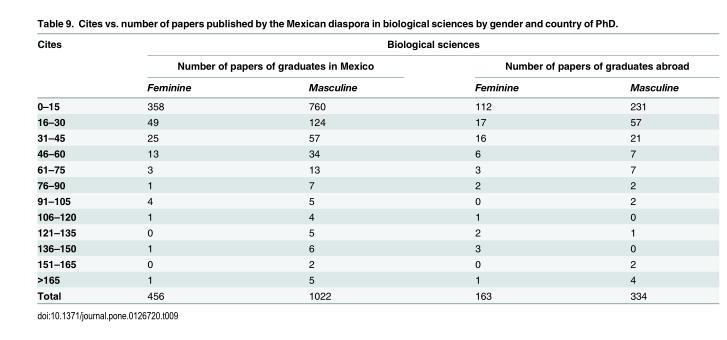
<table><thead><tr><td rowspan="3">Cites</td><td colspan="4">Biological sciences</td></tr><tr><td colspan="2">Number of papers of graduates in Mexico</td><td colspan="2">Number of papers of graduates abroad</td></tr><tr><td>Feminine</td><td>Masculine</td><td>Feminine</td><td>Masculine</td></tr></thead><tbody><tr><td>0–15</td><td>358</td><td>760</td><td>112</td><td>231</td></tr><tr><td>16–30</td><td>49</td><td>124</td><td>17</td><td>57</td></tr><tr><td>31–45</td><td>25</td><td>57</td><td>16</td><td>21</td></tr><tr><td>46–60</td><td>13</td><td>34</td><td>6</td><td>7</td></tr><tr><td>61–75</td><td>3</td><td>13</td><td>3</td><td>7</td></tr><tr><td>76–90</td><td>1</td><td>7</td><td>2</td><td>2</td></tr><tr><td>91–105</td><td>4</td><td>5</td><td>0</td><td>2</td></tr><tr><td>106–120</td><td>1</td><td>4</td><td>1</td><td>0</td></tr><tr><td>121–135</td><td>0</td><td>5</td><td>2</td><td>1</td></tr><tr><td>136–150</td><td>1</td><td>6</td><td>3</td><td>0</td></tr><tr><td>151–165</td><td>0</td><td>2</td><td>0</td><td>2</td></tr><tr><td>&gt;165</td><td>1</td><td>5</td><td>1</td><td>4</td></tr><tr><td>Total</td><td>456</td><td>1022</td><td>163</td><td>334</td></tr></tbody></table>